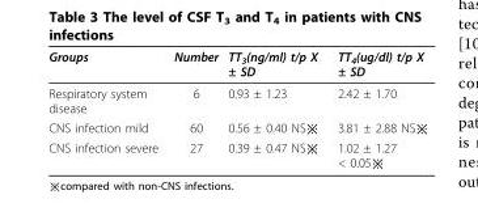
<table><thead><tr><td>Groups</td><td>Number</td><td>TT<sub>3</sub>(ng/ml) t/p X ± SD</td><td>TT<sub>4</sub>(ug/dl) t/p X ± SD</td></tr></thead><tbody><tr><td>Respiratory system disease</td><td>6</td><td>0.93 ± 1.23</td><td>2.42 ± 1.70</td></tr><tr><td>CNS infection mild</td><td>60</td><td>0.56 ± 0.40 NS※</td><td>3.81 ± 2.88 NS※</td></tr><tr><td>CNS infection severe</td><td>27</td><td>0.39 ± 0.47 NS※</td><td>1.02 ± 1.27 &lt; 0.05※</td></tr></tbody></table>